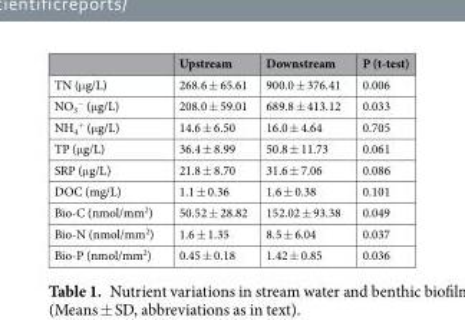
<table><thead><tr><td></td><td>Upstream</td><td>Downstream</td><td>P (t-test)</td></tr></thead><tbody><tr><td>TN (μg/L)</td><td>268.6 ± 65.61</td><td>900.0 ± 376.41</td><td>0.006</td></tr><tr><td>NO<sub>3</sub> <sup>−</sup> (μg/L)</td><td>208.0 ± 59.01</td><td>689.8 ± 413.12</td><td>0.033</td></tr><tr><td>NH<sub>4</sub> <sup>+</sup> (μg/L)</td><td>14.6 ± 6.50</td><td>16.0 ± 4.64</td><td>0.705</td></tr><tr><td>TP (μg/L)</td><td>36.4 ± 8.99</td><td>50.8 ± 11.73</td><td>0.061</td></tr><tr><td>SRP (μg/L)</td><td>21.8 ± 8.70</td><td>31.6 ± 7.06</td><td>0.086</td></tr><tr><td>DOC (mg/L)</td><td>1.1 ± 0.36</td><td>1.6 ± 0.38</td><td>0.101</td></tr><tr><td>Bio-C (nmol/mm<sup>2</sup>)</td><td>50.52 ± 28.82</td><td>152.02 ± 93.38</td><td>0.049</td></tr><tr><td>Bio-N (nmol/mm<sup>2</sup>)</td><td>1.6 ± 1.35</td><td>8.5 ± 6.04</td><td>0.037</td></tr><tr><td>Bio-P (nmol/mm<sup>2</sup>)</td><td>0.45 ± 0.18</td><td>1.42 ± 0.85</td><td>0.036</td></tr></tbody></table>